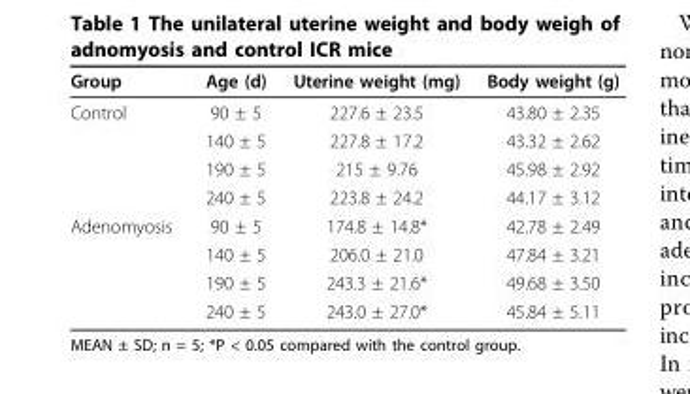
<table><thead><tr><td>Group</td><td>Age (d)</td><td>Uterine weight (mg)</td><td>Body weight (g)</td></tr></thead><tbody><tr><td rowspan="4">Control</td><td>90 ± 5</td><td>227.6 ± 23.5</td><td>43.80 ± 2.35</td></tr><tr><td>140 ± 5</td><td>227.8 ± 17.2</td><td>43.32 ± 2.62</td></tr><tr><td>190 ± 5</td><td>215 ± 9.76</td><td>45.98 ± 2.92</td></tr><tr><td>240 ± 5</td><td>223.8 ± 24.2</td><td>44.17 ± 3.12</td></tr><tr><td rowspan="4">Adenomyosis</td><td>90 ± 5</td><td>174.8 ± 14.8*</td><td>42.78 ± 2.49</td></tr><tr><td>140 ± 5</td><td>206.0 ± 21.0</td><td>47.84 ± 3.21</td></tr><tr><td>190 ± 5</td><td>243.3 ± 21.6*</td><td>49.68 ± 3.50</td></tr><tr><td>240 ± 5</td><td>243.0 ± 27.0*</td><td>45.84 ± 5.11</td></tr></tbody></table>